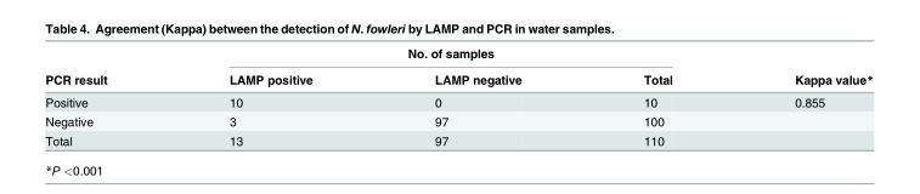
<table><thead><tr><td rowspan="2">PCR result</td><td colspan="3">No. of samples</td><td rowspan="2">Kappa value*</td></tr><tr><td>LAMP positive</td><td>LAMP negative</td><td>Total</td></tr></thead><tbody><tr><td>Positive</td><td>10</td><td>0</td><td>10</td><td>0.855</td></tr><tr><td>Negative</td><td>3</td><td>97</td><td>100</td><td></td></tr><tr><td>Total</td><td>13</td><td>97</td><td>110</td><td></td></tr></tbody></table>